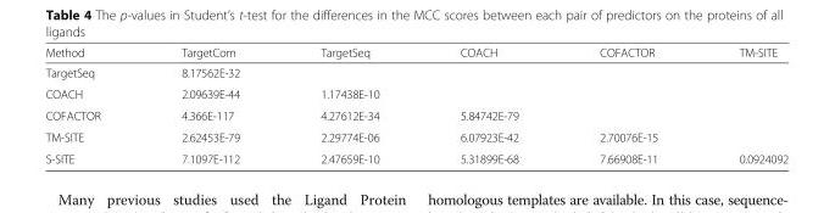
<table><thead><tr><td>Method</td><td>TargetCom</td><td>TargetSeq</td><td>COACH</td><td>COFACTOR</td><td>TM-SITE</td></tr></thead><tbody><tr><td>TargetSeq</td><td>8.17562E-32</td><td></td><td></td><td></td><td></td></tr><tr><td>COACH</td><td>2.09639E-44</td><td>1.17438E-10</td><td></td><td></td><td></td></tr><tr><td>COFACTOR</td><td>4.366E-117</td><td>4.27612E-34</td><td>5.84742E-79</td><td></td><td></td></tr><tr><td>TM-SITE</td><td>2.62453E-79</td><td>2.29774E-06</td><td>6.07923E-42</td><td>2.70076E-15</td><td></td></tr><tr><td>S-SITE</td><td>7.1097E-112</td><td>2.47659E-10</td><td>5.31899E-68</td><td>7.66908E-11</td><td>0.0924092</td></tr></tbody></table>